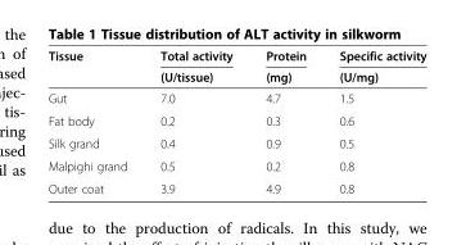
<table><thead><tr><td rowspan="2">Tissue</td><td rowspan="2">Total activity (U/tissue)</td><td rowspan="2">Protein (mg)</td><td rowspan="2">Specific activity (U/mg)</td></tr><tr></tr></thead><tbody><tr><td>Gut</td><td>7.0</td><td>4.7</td><td>1.5</td></tr><tr><td>Fat body</td><td>0.2</td><td>0.3</td><td>0.6</td></tr><tr><td>Silk grand</td><td>0.4</td><td>0.9</td><td>0.5</td></tr><tr><td>Malpighi grand</td><td>0.5</td><td>0.2</td><td>0.8</td></tr><tr><td>Outer coat</td><td>3.9</td><td>4.9</td><td>0.8</td></tr></tbody></table>